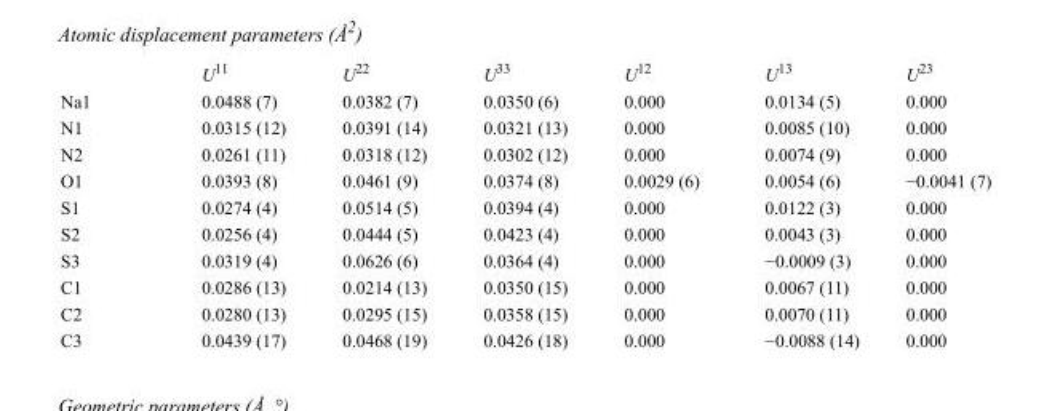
<table><thead><tr><td></td><td>U<sup>11</sup></td><td>U<sup>22</sup></td><td>U<sup>33</sup></td><td>U<sup>12</sup></td><td>U<sup>13</sup></td><td>U<sup>23</sup></td></tr></thead><tbody><tr><td>Na1</td><td>0.0488 (7)</td><td>0.0382 (7)</td><td>0.0350 (6)</td><td>0.000</td><td>0.0134 (5)</td><td>0.000</td></tr><tr><td>N1</td><td>0.0315 (12)</td><td>0.0391 (14)</td><td>0.0321 (13)</td><td>0.000</td><td>0.0085 (10)</td><td>0.000</td></tr><tr><td>N2</td><td>0.0261 (11)</td><td>0.0318 (12)</td><td>0.0302 (12)</td><td>0.000</td><td>0.0074 (9)</td><td>0.000</td></tr><tr><td>O1</td><td>0.0393 (8)</td><td>0.0461 (9)</td><td>0.0374 (8)</td><td>0.0029 (6)</td><td>0.0054 (6)</td><td>−0.0041 (7)</td></tr><tr><td>S1</td><td>0.0274 (4)</td><td>0.0514 (5)</td><td>0.0394 (4)</td><td>0.000</td><td>0.0122 (3)</td><td>0.000</td></tr><tr><td>S2</td><td>0.0256 (4)</td><td>0.0444 (5)</td><td>0.0423 (4)</td><td>0.000</td><td>0.0043 (3)</td><td>0.000</td></tr><tr><td>S3</td><td>0.0319 (4)</td><td>0.0626 (6)</td><td>0.0364 (4)</td><td>0.000</td><td>−0.0009 (3)</td><td>0.000</td></tr><tr><td>C1</td><td>0.0286 (13)</td><td>0.0214 (13)</td><td>0.0350 (15)</td><td>0.000</td><td>0.0067 (11)</td><td>0.000</td></tr><tr><td>C2</td><td>0.0280 (13)</td><td>0.0295 (15)</td><td>0.0358 (15)</td><td>0.000</td><td>0.0070 (11)</td><td>0.000</td></tr><tr><td>C3</td><td>0.0439 (17)</td><td>0.0468 (19)</td><td>0.0426 (18)</td><td>0.000</td><td>−0.0088 (14)</td><td>0.000</td></tr></tbody></table>